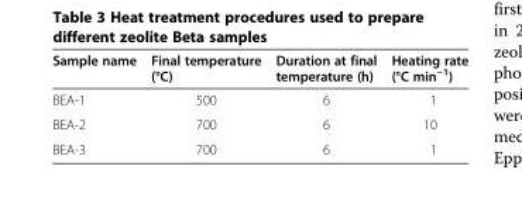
<table><thead><tr><td>Sample name</td><td>Final temperature (°C)</td><td>Duration at final temperature (h)</td><td>Heating rate (°C min<sup>−1</sup>)</td></tr></thead><tbody><tr><td>BEA-1</td><td>500</td><td>6</td><td>1</td></tr><tr><td>BEA-2</td><td>700</td><td>6</td><td>10</td></tr><tr><td>BEA-3</td><td>700</td><td>6</td><td>1</td></tr></tbody></table>